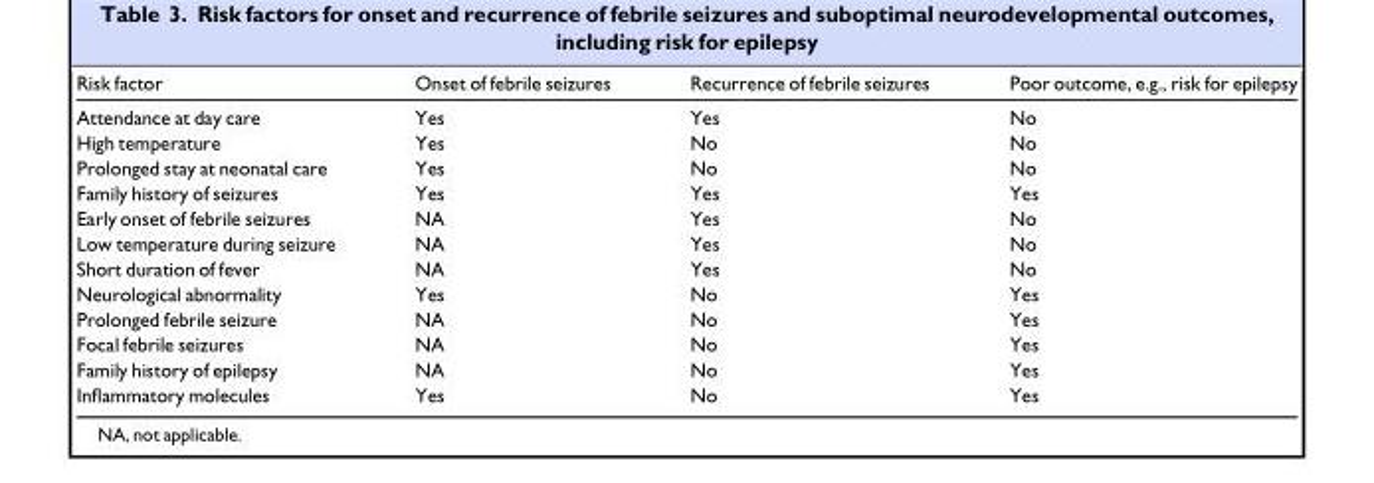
<table><thead><tr><td>Risk factor</td><td>Onset of febrile seizures</td><td>Recurrence of febrile seizures</td><td>Poor outcome, e.g., risk for epilepsy</td></tr></thead><tbody><tr><td>Attendance at day care</td><td>Yes</td><td>Yes</td><td>No</td></tr><tr><td>High temperature</td><td>Yes</td><td>No</td><td>No</td></tr><tr><td>Prolonged stay at neonatal care</td><td>Yes</td><td>No</td><td>No</td></tr><tr><td>Family history of seizures</td><td>Yes</td><td>Yes</td><td>Yes</td></tr><tr><td>Early onset of febrile seizures</td><td>NA</td><td>Yes</td><td>No</td></tr><tr><td>Low temperature during seizure</td><td>NA</td><td>Yes</td><td>No</td></tr><tr><td>Short duration of fever</td><td>NA</td><td>Yes</td><td>No</td></tr><tr><td>Neurological abnormality</td><td>Yes</td><td>No</td><td>Yes</td></tr><tr><td>Prolonged febrile seizure</td><td>NA</td><td>No</td><td>Yes</td></tr><tr><td>Focal febrile seizures</td><td>NA</td><td>No</td><td>Yes</td></tr><tr><td>Family history of epilepsy</td><td>NA</td><td>No</td><td>Yes</td></tr><tr><td>Inflammatory molecules</td><td>Yes</td><td>No</td><td>Yes</td></tr></tbody></table>